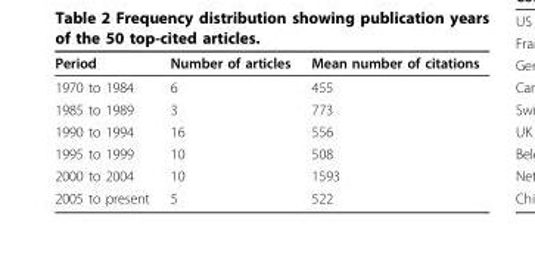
<table><thead><tr><td>Period</td><td>Number of articles</td><td>Mean number of citations</td></tr></thead><tbody><tr><td>1970 to 1984</td><td>6</td><td>455</td></tr><tr><td>1985 to 1989</td><td>3</td><td>773</td></tr><tr><td>1990 to 1994</td><td>16</td><td>556</td></tr><tr><td>1995 to 1999</td><td>10</td><td>508</td></tr><tr><td>2000 to 2004</td><td>10</td><td>1593</td></tr><tr><td>2005 to present</td><td>5</td><td>522</td></tr></tbody></table>